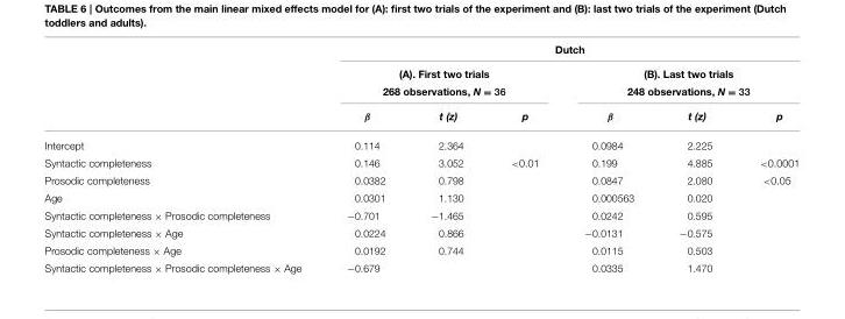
<table><thead><tr><td rowspan="4"></td><td colspan="6">Dutch</td></tr><tr><td rowspan="2" colspan="3">(A). First two trials 268 observations, N = 36</td><td rowspan="2" colspan="3">(B). Last two trials 248 observations, N = 33</td></tr><tr></tr><tr><td>β</td><td>t (z)</td><td>p</td><td>β</td><td>t (z)</td><td>p</td></tr></thead><tbody><tr><td>Intercept</td><td>0.114</td><td>2.364</td><td></td><td>0.0984</td><td>2.225</td><td></td></tr><tr><td>Syntactic completeness</td><td>0.146</td><td>3.052</td><td>&lt;0.01</td><td>0.199</td><td>4.885</td><td>&lt;0.0001</td></tr><tr><td>Prosodic completeness</td><td>0.0382</td><td>0.798</td><td></td><td>0.0847</td><td>2.080</td><td>&lt;0.05</td></tr><tr><td>Age</td><td>0.0301</td><td>1.130</td><td></td><td>0.000563</td><td>0.020</td><td></td></tr><tr><td>Syntactic completeness × Prosodic completeness</td><td>−0.701</td><td>−1.465</td><td></td><td>0.0242</td><td>0.595</td><td></td></tr><tr><td>Syntactic completeness × Age</td><td>0.0224</td><td>0.866</td><td></td><td>−0.0131</td><td>−0.575</td><td></td></tr><tr><td>Prosodic completeness × Age</td><td>0.0192</td><td>0.744</td><td></td><td>0.0115</td><td>0.503</td><td></td></tr><tr><td>Syntactic completeness × Prosodic completeness × Age</td><td>−0.679</td><td></td><td></td><td>0.0335</td><td>1.470</td><td></td></tr></tbody></table>